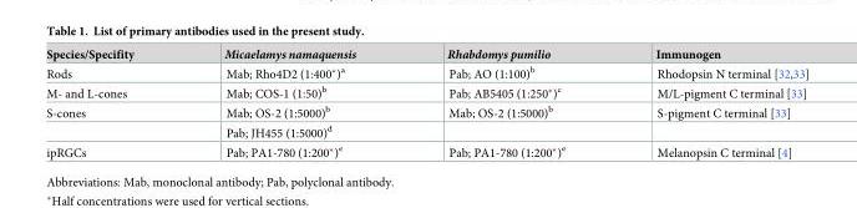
<table><thead><tr><td>Species/Specifity</td><td>Micaelamys namaquensis</td><td>Rhabdomys pumilio</td><td>Immunogen</td></tr></thead><tbody><tr><td>Rods</td><td>Mab; Rho4D2 (1:400*)<sup>a</sup></td><td>Pab; AO (1:100)<sup>b</sup></td><td>Rhodopsin N terminal [32,33]</td></tr><tr><td>M- and L-cones</td><td>Mab; COS-1 (1:50)<sup>b</sup></td><td>Pab; AB5405 (1:250*)<sup>c</sup></td><td>M/L-pigment C terminal [33]</td></tr><tr><td rowspan="2">S-cones</td><td>Mab; OS-2 (1:5000)<sup>b</sup></td><td>Mab; OS-2 (1:5000)<sup>b</sup></td><td>S-pigment C terminal [33]</td></tr><tr><td>Pab; JH455 (1:5000)<sup>d</sup></td><td></td><td></td></tr><tr><td>ipRGCs</td><td>Pab; PA1-780 (1:200*)<sup>e</sup></td><td>Pab; PA1-780 (1:200*)<sup>e</sup></td><td>Melanopsin C terminal [4]</td></tr></tbody></table>